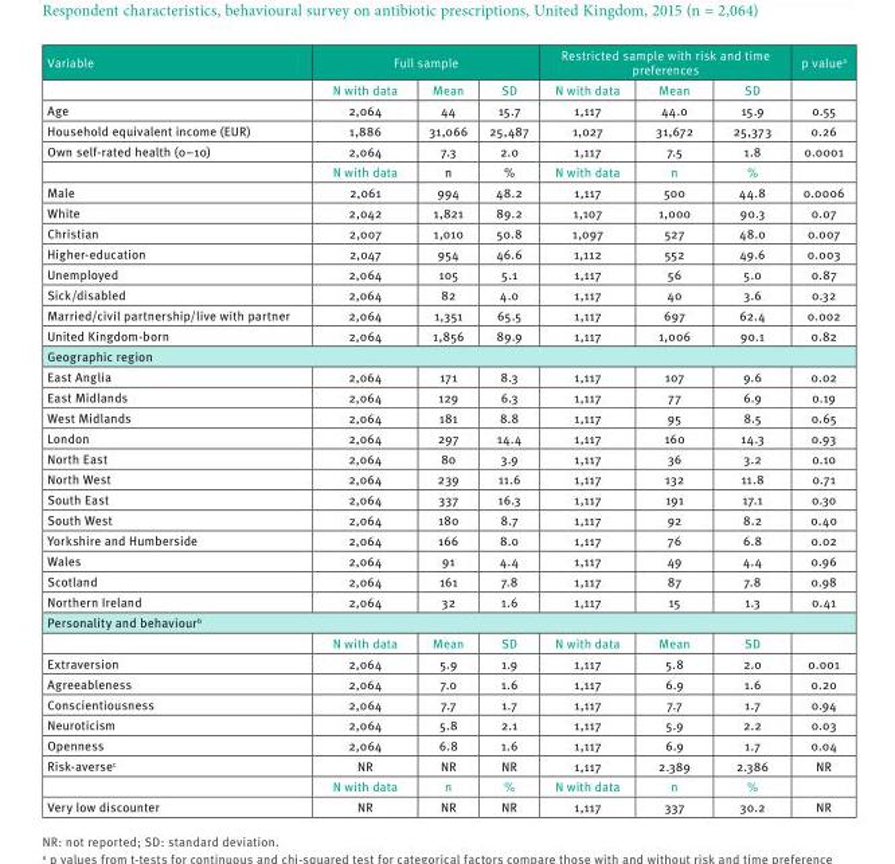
<table><thead><tr><td rowspan="2">Variable</td><td colspan="3">Full sample</td><td colspan="3">Restricted sample with risk and time preferences</td><td rowspan="2">p value<sup>a</sup></td></tr><tr><td>N with data</td><td>Mean</td><td>SD</td><td>N with data</td><td>Mean</td><td>SD</td></tr></thead><tbody><tr><td>Age</td><td>2,064</td><td>44</td><td>15.7</td><td>1,117</td><td>44.0</td><td>15.9</td><td>0.55</td></tr><tr><td>Household equivalent income (EUR)</td><td>1,886</td><td>31,066</td><td>25,487</td><td>1,027</td><td>31,672</td><td>25,373</td><td>0.26</td></tr><tr><td rowspan="2">Own self-rated health (0–10)</td><td>2,064</td><td>7.3</td><td>2.0</td><td>1,117</td><td>7.5</td><td>1.8</td><td>0.0001</td></tr><tr><td>N with data</td><td>n</td><td>%</td><td>N with data</td><td>n</td><td>%</td><td></td></tr><tr><td>Male</td><td>2,061</td><td>994</td><td>48.2</td><td>1,117</td><td>500</td><td>44.8</td><td>0.0006</td></tr><tr><td>White</td><td>2,042</td><td>1,821</td><td>89.2</td><td>1,107</td><td>1,000</td><td>90.3</td><td>0.07</td></tr><tr><td>Christian</td><td>2,007</td><td>1,010</td><td>50.8</td><td>1,097</td><td>527</td><td>48.0</td><td>0.007</td></tr><tr><td>Higher-education</td><td>2,047</td><td>954</td><td>46.6</td><td>1,112</td><td>552</td><td>49.6</td><td>0.003</td></tr><tr><td>Unemployed</td><td>2,064</td><td>105</td><td>5.1</td><td>1,117</td><td>56</td><td>5.0</td><td>0.87</td></tr><tr><td>Sick/disabled</td><td>2,064</td><td>82</td><td>4.0</td><td>1,117</td><td>40</td><td>3.6</td><td>0.32</td></tr><tr><td>Married/civil partnership/live with partner</td><td>2,064</td><td>1,351</td><td>65.5</td><td>1,117</td><td>697</td><td>62.4</td><td>0.002</td></tr><tr><td>United Kingdom-born</td><td>2,064</td><td>1,856</td><td>89.9</td><td>1,117</td><td>1,006</td><td>90.1</td><td>0.82</td></tr><tr><td colspan="8">Geographic region</td></tr><tr><td>East Anglia</td><td>2,064</td><td>171</td><td>8.3</td><td>1,117</td><td>107</td><td>9.6</td><td>0.02</td></tr><tr><td>East Midlands</td><td>2,064</td><td>129</td><td>6.3</td><td>1,117</td><td>77</td><td>6.9</td><td>0.19</td></tr><tr><td>West Midlands</td><td>2,064</td><td>181</td><td>8.8</td><td>1,117</td><td>95</td><td>8.5</td><td>0.65</td></tr><tr><td>London</td><td>2,064</td><td>297</td><td>14.4</td><td>1,117</td><td>160</td><td>14.3</td><td>0.93</td></tr><tr><td>North East</td><td>2,064</td><td>80</td><td>3.9</td><td>1,117</td><td>36</td><td>3.2</td><td>0.10</td></tr><tr><td>North West</td><td>2,064</td><td>239</td><td>11.6</td><td>1,117</td><td>132</td><td>11.8</td><td>0.71</td></tr><tr><td>South East</td><td>2,064</td><td>337</td><td>16.3</td><td>1,117</td><td>191</td><td>17.1</td><td>0.30</td></tr><tr><td>South West</td><td>2,064</td><td>180</td><td>8.7</td><td>1,117</td><td>92</td><td>8.2</td><td>0.40</td></tr><tr><td>Yorkshire and Humberside</td><td>2,064</td><td>166</td><td>8.0</td><td>1,117</td><td>76</td><td>6.8</td><td>0.02</td></tr><tr><td>Wales</td><td>2,064</td><td>91</td><td>4.4</td><td>1,117</td><td>49</td><td>4.4</td><td>0.96</td></tr><tr><td>Scotland</td><td>2,064</td><td>161</td><td>7.8</td><td>1,117</td><td>87</td><td>7.8</td><td>0.98</td></tr><tr><td>Northern Ireland</td><td>2,064</td><td>32</td><td>1.6</td><td>1,117</td><td>15</td><td>1.3</td><td>0.41</td></tr><tr><td colspan="8">Personality and behaviour<sup>b</sup></td></tr><tr><td></td><td>N with data</td><td>Mean</td><td>SD</td><td>N with data</td><td>Mean</td><td>SD</td><td></td></tr><tr><td>Extraversion</td><td>2,064</td><td>5.9</td><td>1.9</td><td>1,117</td><td>5.8</td><td>2.0</td><td>0.001</td></tr><tr><td>Agreeableness</td><td>2,064</td><td>7.0</td><td>1.6</td><td>1,117</td><td>6.9</td><td>1.6</td><td>0.20</td></tr><tr><td>Conscientiousness</td><td>2,064</td><td>7.7</td><td>1.7</td><td>1,117</td><td>7.7</td><td>1.7</td><td>0.94</td></tr><tr><td>Neuroticism</td><td>2,064</td><td>5.8</td><td>2.1</td><td>1,117</td><td>5.9</td><td>2.2</td><td>0.03</td></tr><tr><td>Openness</td><td>2,064</td><td>6.8</td><td>1.6</td><td>1,117</td><td>6.9</td><td>1.7</td><td>0.04</td></tr><tr><td rowspan="2">Risk-averse<sup>c</sup></td><td>NR</td><td>NR</td><td>NR</td><td>1,117</td><td>2.389</td><td>2.386</td><td>NR</td></tr><tr><td>N with data</td><td>n</td><td>%</td><td>N with data</td><td>n</td><td>%</td><td></td></tr><tr><td>Very low discounter</td><td>NR</td><td>NR</td><td>NR</td><td>1,117</td><td>337</td><td>30.2</td><td>NR</td></tr></tbody></table>